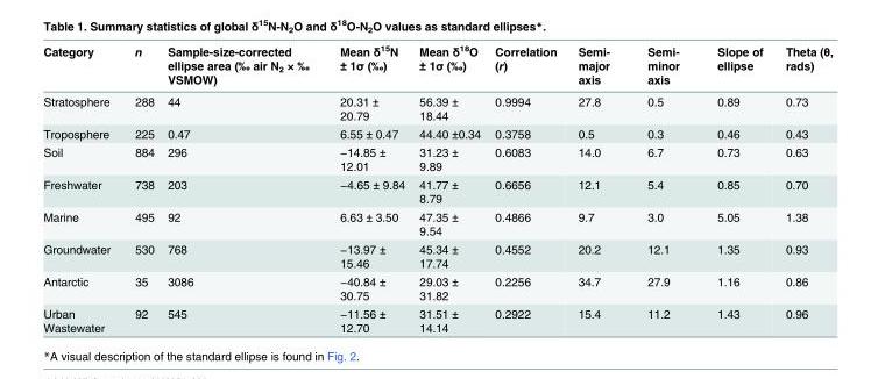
<table><thead><tr><td>Category</td><td>n</td><td>Sample-size-corrected ellipse area (‰ air N<sub>2</sub> × ‰ VSMOW)</td><td>Mean δ<sup>15</sup>N ± 1σ (‰)</td><td>Mean δ<sup>18</sup>O ± 1σ (‰)</td><td>Correlation (r)</td><td>Semi- major axis</td><td>Semi- minor axis</td><td>Slope of ellipse</td><td>Theta (θ, rads)</td></tr></thead><tbody><tr><td>Stratosphere</td><td>288</td><td>44</td><td>20.31 ± 20.79</td><td>56.39 ± 18.44</td><td>0.9994</td><td>27.8</td><td>0.5</td><td>0.89</td><td>0.73</td></tr><tr><td>Troposphere</td><td>225</td><td>0.47</td><td>6.55 ± 0.47</td><td>44.40 ±0.34</td><td>0.3758</td><td>0.5</td><td>0.3</td><td>0.46</td><td>0.43</td></tr><tr><td>Soil</td><td>884</td><td>296</td><td>−14.85 ± 12.01</td><td>31.23 ± 9.89</td><td>0.6083</td><td>14.0</td><td>6.7</td><td>0.73</td><td>0.63</td></tr><tr><td>Freshwater</td><td>738</td><td>203</td><td>−4.65 ± 9.84</td><td>41.77 ± 8.79</td><td>0.6656</td><td>12.1</td><td>5.4</td><td>0.85</td><td>0.70</td></tr><tr><td>Marine</td><td>495</td><td>92</td><td>6.63 ± 3.50</td><td>47.35 ± 9.54</td><td>0.4866</td><td>9.7</td><td>3.0</td><td>5.05</td><td>1.38</td></tr><tr><td>Groundwater</td><td>530</td><td>768</td><td>−13.97 ± 15.46</td><td>45.34 ± 17.74</td><td>0.4552</td><td>20.2</td><td>12.1</td><td>1.35</td><td>0.93</td></tr><tr><td>Antarctic</td><td>35</td><td>3086</td><td>−40.84 ± 30.75</td><td>29.03 ± 31.82</td><td>0.2256</td><td>34.7</td><td>27.9</td><td>1.16</td><td>0.86</td></tr><tr><td>Urban Wastewater</td><td>92</td><td>545</td><td>−11.56 ± 12.70</td><td>31.51 ± 14.14</td><td>0.2922</td><td>15.4</td><td>11.2</td><td>1.43</td><td>0.96</td></tr></tbody></table>